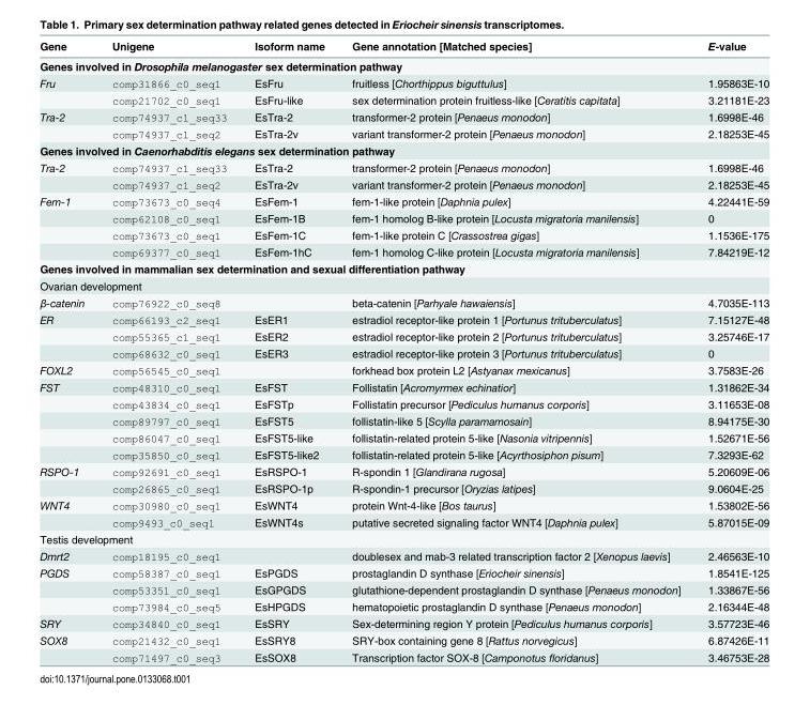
<table><thead><tr><td>Gene</td><td>Unigene</td><td>Isoform name</td><td>Gene annotation [Matched species]</td><td>E-value</td></tr></thead><tbody><tr><td colspan="5">Genes involved in Drosophila melanogaster sex determination pathway</td></tr><tr><td rowspan="2">Fru</td><td>comp31866_c0_seq1</td><td>EsFru</td><td>fruitless [Chorthippus biguttulus]</td><td>1.95863E-10</td></tr><tr><td>comp21702_c0_seq1</td><td>EsFru-like</td><td>sex determination protein fruitless-like [Ceratitis capitata]</td><td>3.21181E-23</td></tr><tr><td rowspan="2">Tra-2</td><td>comp74937_c1_seq33</td><td>EsTra-2</td><td>transformer-2 protein [Penaeus monodon]</td><td>1.6998E-46</td></tr><tr><td>comp74937_c1_seq2</td><td>EsTra-2v</td><td>variant transformer-2 protein [Penaeus monodon]</td><td>2.18253E-45</td></tr><tr><td colspan="5">Genes involved in Caenorhabditis elegans sex determination pathway</td></tr><tr><td rowspan="2">Tra-2</td><td>comp74937_c1_seq33</td><td>EsTra-2</td><td>transformer-2 protein [Penaeus monodon]</td><td>1.6998E-46</td></tr><tr><td>comp74937_c1_seq2</td><td>EsTra-2v</td><td>variant transformer-2 protein [Penaeus monodon]</td><td>2.18253E-45</td></tr><tr><td rowspan="4">Fem-1</td><td>comp73673_c0_seq4</td><td>EsFem-1</td><td>fem-1-like protein [Daphnia pulex]</td><td>4.22441E-59</td></tr><tr><td>comp62108_c0_seq1</td><td>EsFem-1B</td><td>fem-1 homolog B-like protein [Locusta migratoria manilensis]</td><td>0</td></tr><tr><td>comp73673_c0_seq1</td><td>EsFem-1C</td><td>fem-1-like protein C [Crassostrea gigas]</td><td>1.1536E-175</td></tr><tr><td>comp69377_c0_seq1</td><td>EsFem-1hC</td><td>fem-1 homolog C-like protein [Locusta migratoria manilensis]</td><td>7.84219E-12</td></tr><tr><td colspan="5">Genes involved in mammalian sex determination and sexual differentiation pathway</td></tr><tr><td colspan="5">Ovarian development</td></tr><tr><td>β-catenin</td><td>comp76922_c0_seq8</td><td></td><td>beta-catenin [Parhyale hawaiensis]</td><td>4.7035E-113</td></tr><tr><td rowspan="3">ER</td><td>comp66193_c2_seq1</td><td>EsER1</td><td>estradiol receptor-like protein 1 [Portunus trituberculatus]</td><td>7.15127E-48</td></tr><tr><td>comp55365_c1_seq1</td><td>EsER2</td><td>estradiol receptor-like protein 2 [Portunus trituberculatus]</td><td>3.25746E-17</td></tr><tr><td>comp68632_c0_seq1</td><td>EsER3</td><td>estradiol receptor-like protein 3 [Portunus trituberculatus]</td><td>0</td></tr><tr><td>FOXL2</td><td>comp56545_c0_seq1</td><td></td><td>forkhead box protein L2 [Astyanax mexicanus]</td><td>3.7583E-26</td></tr><tr><td rowspan="5">FST</td><td>comp48310_c0_seq1</td><td>EsFST</td><td>Follistatin [Acromyrmex echinatior]</td><td>1.31862E-34</td></tr><tr><td>comp43834_c0_seq1</td><td>EsFSTp</td><td>Follistatin precursor [Pediculus humanus corporis]</td><td>3.11653E-08</td></tr><tr><td>comp89797_c0_seq1</td><td>EsFST5</td><td>follistatin-like 5 [Scylla paramamosain]</td><td>8.94175E-30</td></tr><tr><td>comp86047_c0_seq1</td><td>EsFST5-like</td><td>follistatin-related protein 5-like [Nasonia vitripennis]</td><td>1.52671E-56</td></tr><tr><td>comp35850_c0_seq1</td><td>EsFST5-like2</td><td>follistatin-related protein 5-like [Acyrthosiphon pisum]</td><td>7.3293E-62</td></tr><tr><td rowspan="2">RSPO-1</td><td>comp92691_c0_seq1</td><td>EsRSPO-1</td><td>R-spondin 1 [Glandirana rugosa]</td><td>5.20609E-06</td></tr><tr><td>comp26865_c0_seq1</td><td>EsRSPO-1p</td><td>R-spondin-1 precursor [Oryzias latipes]</td><td>9.0604E-25</td></tr><tr><td rowspan="2">WNT4</td><td>comp30980_c0_seq1</td><td>EsWNT4</td><td>protein Wnt-4-like [Bos taurus]</td><td>1.53802E-56</td></tr><tr><td>comp9493_c0_seq1</td><td>EsWNT4s</td><td>putative secreted signaling factor WNT4 [Daphnia pulex]</td><td>5.87015E-09</td></tr><tr><td colspan="5">Testis development</td></tr><tr><td>Dmrt2</td><td>comp18195_c0_seq1</td><td></td><td>doublesex and mab-3 related transcription factor 2 [Xenopus laevis]</td><td>2.46563E-10</td></tr><tr><td rowspan="3">PGDS</td><td>comp58387_c0_seq1</td><td>EsPGDS</td><td>prostaglandin D synthase [Eriocheir sinensis]</td><td>1.8541E-125</td></tr><tr><td>comp53351_c0_seq1</td><td>EsGPGDS</td><td>glutathione-dependent prostaglandin D synthase [Penaeus monodon]</td><td>1.33867E-56</td></tr><tr><td>comp73984_c0_seq5</td><td>EsHPGDS</td><td>hematopoietic prostaglandin D synthase [Penaeus monodon]</td><td>2.16344E-48</td></tr><tr><td>SRY</td><td>comp34840_c0_seq1</td><td>EsSRY</td><td>Sex-determining region Y protein [Pediculus humanus corporis]</td><td>3.57723E-46</td></tr><tr><td rowspan="2">SOX8</td><td>comp21432_c0_seq1</td><td>EsSRY8</td><td>SRY-box containing gene 8 [Rattus norvegicus]</td><td>6.87426E-11</td></tr><tr><td>comp71497_c0_seq3</td><td>EsSOX8</td><td>Transcription factor SOX-8 [Camponotus floridanus]</td><td>3.46753E-28</td></tr></tbody></table>